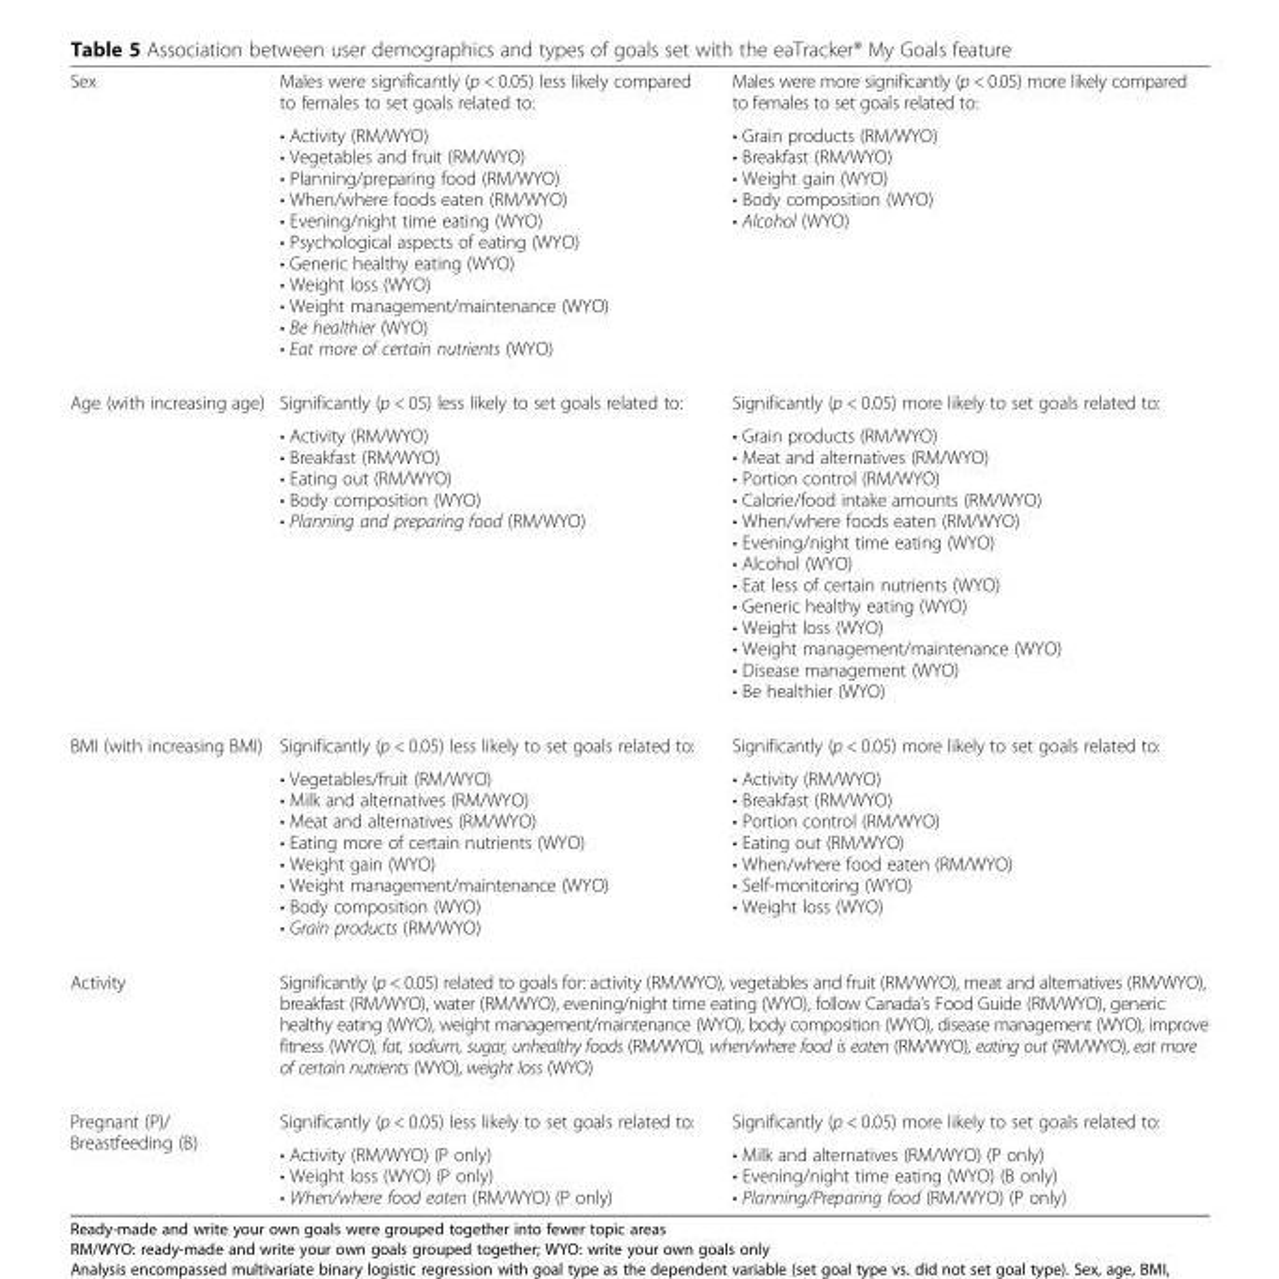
<table><tbody><tr><td rowspan="2">Sex</td><td>Males were significantly (p &lt; 0.05) less likely compared to females to set goals related to:</td><td>Males were more significantly (p &lt; 0.05) more likely compared to females to set goals related to:</td></tr><tr><td>• Activity (RM/WYO) • Vegetables and fruit (RM/WYO) • Planning/preparing food (RM/WYO) • When/where foods eaten (RM/WYO) • Evening/night time eating (WYO) • Psychological aspects of eating (WYO) • Generic healthy eating (WYO) • Weight loss (WYO) • Weight management/maintenance (WYO) • Be healthier (WYO) • Eat more of certain nutrients (WYO)</td><td>• Grain products (RM/WYO) • Breakfast (RM/WYO) • Weight gain (WYO) • Body composition (WYO) • Alcohol (WYO)</td></tr><tr><td rowspan="2">Age (with increasing age)</td><td>Significantly (p &lt; 05) less likely to set goals related to:</td><td>Significantly (p &lt; 0.05) more likely to set goals related to:</td></tr><tr><td>• Activity (RM/WYO) • Breakfast (RM/WYO) • Eating out (RM/WYO) • Body composition (WYO) • Planning and preparing food (RM/WYO)</td><td>• Grain products (RM/WYO) • Meat and alternatives (RM/WYO) • Portion control (RM/WYO) • Calorie/food intake amounts (RM/WYO) • When/where foods eaten (RM/WYO) • Evening/night time eating (WYO) • Alcohol (WYO) • Eat less of certain nutrients (WYO) • Generic healthy eating (WYO) • Weight loss (WYO) • Weight management/maintenance (WYO) • Disease management (WYO) • Be healthier (WYO)</td></tr><tr><td rowspan="2">BMI (with increasing BMI)</td><td>Significantly (p &lt; 0.05) less likely to set goals related to:</td><td>Significantly (p &lt; 0.05) more likely to set goals related to:</td></tr><tr><td>• Vegetables/fruit (RM/WYO) • Milk and alternatives (RM/WYO) • Meat and alternatives (RM/WYO) • Eating more of certain nutrients (WYO) • Weight gain (WYO) • Weight management/maintenance (WYO) • Body composition (WYO) • Grain products (RM/WYO)</td><td>• Activity (RM/WYO) • Breakfast (RM/WYO) • Portion control (RM/WYO) • Eating out (RM/WYO) • When/where food eaten (RM/WYO) • Self-monitoring (WYO) • Weight loss (WYO)</td></tr><tr><td>Activity</td><td colspan="2">Significantly (p &lt; 0.05) related to goals for: activity (RM/WYO), vegetables and fruit (RM/WYO), meat and alternatives (RM/WYO), breakfast (RM/WYO), water (RM/WYO), evening/night time eating (WYO), follow Canada’s Food Guide (RM/WYO), generic healthy eating (WYO), weight management/maintenance (WYO), body composition (WYO), disease management (WYO), improve fitness (WYO), fat, sodium, sugar, unhealthy foods (RM/WYO), when/where food is eaten (RM/WYO), eating out (RM/WYO), eat more of certain nutrients (WYO), weight loss (WYO)</td></tr><tr><td rowspan="2">Pregnant (P)/ Breastfeeding (B)</td><td>Significantly (p &lt; 0.05) less likely to set goals related to:</td><td>Significantly (p &lt; 0.05) more likely to set goals related to:</td></tr><tr><td>• Activity (RM/WYO) (P only) • Weight loss (WYO) (P only) • When/where food eaten (RM/WYO) (P only)</td><td>• Milk and alternatives (RM/WYO) (P only) • Evening/night time eating (WYO) (B only) • Planning/Preparing food (RM/WYO) (P only)</td></tr></tbody></table>